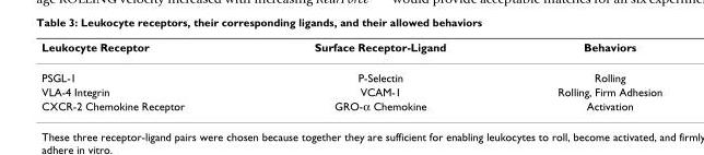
<table><thead><tr><td>Leukocyte Receptor</td><td>Surface Receptor-Ligand</td><td>Behaviors</td></tr></thead><tbody><tr><td>PSGL-1</td><td>P-Selectin</td><td>Rolling</td></tr><tr><td>VLA-4 Integrin</td><td>VCAM-1</td><td>Rolling, Firm Adhesion</td></tr><tr><td>CXCR-2 Chemokine Receptor</td><td>GRO-α Chemokine</td><td>Activation</td></tr></tbody></table>